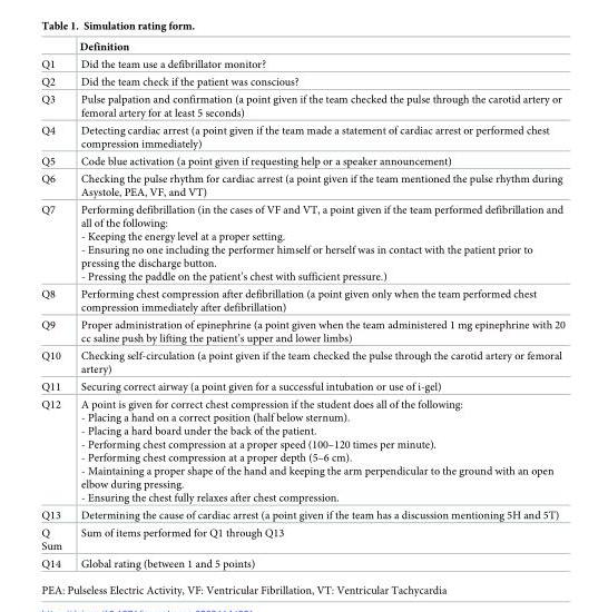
<table><thead><tr><td></td><td>Definition</td></tr></thead><tbody><tr><td>Q1</td><td>Did the team use a defibrillator monitor?</td></tr><tr><td>Q2</td><td>Did the team check if the patient was conscious?</td></tr><tr><td>Q3</td><td>Pulse palpation and confirmation (a point given if the team checked the pulse through the carotid artery or femoral artery for at least 5 seconds)</td></tr><tr><td>Q4</td><td>Detecting cardiac arrest (a point given if the team made a statement of cardiac arrest or performed chest compression immediately)</td></tr><tr><td>Q5</td><td>Code blue activation (a point given if requesting help or a speaker announcement)</td></tr><tr><td>Q6</td><td>Checking the pulse rhythm for cardiac arrest (a point given if the team mentioned the pulse rhythm during Asystole, PEA, VF, and VT)</td></tr><tr><td>Q7</td><td>Performing defibrillation (in the cases of VF and VT, a point given if the team performed defibrillation and all of the following: - Keeping the energy level at a proper setting. - Ensuring no one including the performer himself or herself was in contact with the patient prior to pressing the discharge button. - Pressing the paddle on the patient’s chest with sufficient pressure.)</td></tr><tr><td>Q8</td><td>Performing chest compression after defibrillation (a point given only when the team performed chest compression immediately after defibrillation)</td></tr><tr><td>Q9</td><td>Proper administration of epinephrine (a point given when the team administered 1 mg epinephrine with 20 cc saline push by lifting the patient’s upper and lower limbs)</td></tr><tr><td>Q10</td><td>Checking self-circulation (a point given if the team checked the pulse through the carotid artery or femoral artery)</td></tr><tr><td>Q11</td><td>Securing correct airway (a point given for a successful intubation or use of i-gel)</td></tr><tr><td>Q12</td><td>A point is given for correct chest compression if the student does all of the following: - Placing a hand on a correct position (half below sternum). - Placing a hard board under the back of the patient. - Performing chest compression at a proper speed (100–120 times per minute). - Performing chest compression at a proper depth (5–6 cm). - Maintaining a proper shape of the hand and keeping the arm perpendicular to the ground with an open elbow during pressing. - Ensuring the chest fully relaxes after chest compression.</td></tr><tr><td>Q13</td><td>Determining the cause of cardiac arrest (a point given if the team has a discussion mentioning 5H and 5T)</td></tr><tr><td>Q Sum</td><td>Sum of items performed for Q1 through Q13</td></tr><tr><td>Q14</td><td>Global rating (between 1 and 5 points)</td></tr></tbody></table>